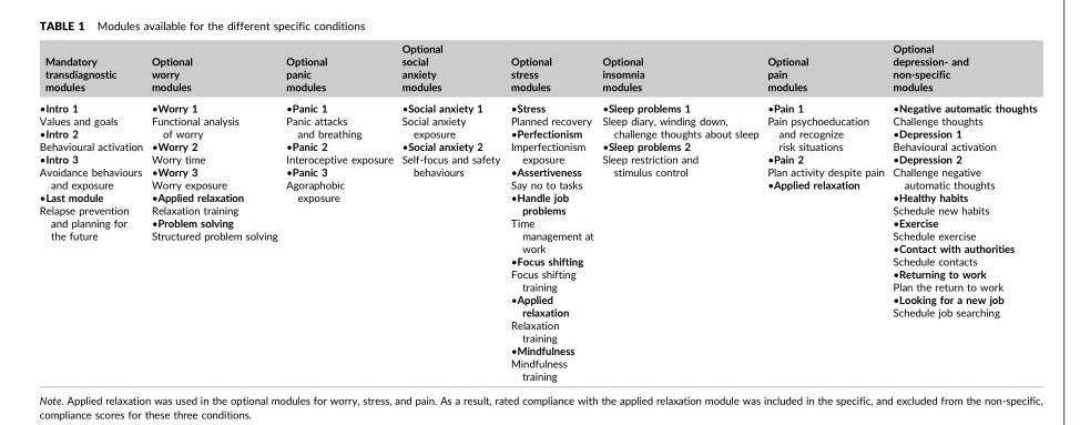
<table><thead><tr><td>Mandatory transdiagnostic modules</td><td>Optional worry modules</td><td>Optional panic modules</td><td>Optional social anxiety modules</td><td>Optional stress modules</td><td>Optional insomnia modules</td><td>Optional pain modules</td><td>Optional depression‐ and non‐specific modules</td></tr></thead><tbody><tr><td>•Intro 1 Values and goals •Intro 2 Behavioural activation •Intro 3 Avoidance behaviours and exposure •Last module Relapse prevention and planning for the future</td><td>•Worry 1 Functional analysis of worry •Worry 2 Worry time •Worry 3 Worry exposure •Applied relaxation Relaxation training •Problem solving Structured problem solving</td><td>•Panic 1 Panic attacks and breathing •Panic 2 Interoceptive exposure •Panic 3 Agoraphobic exposure</td><td>•Social anxiety 1 Social anxiety exposure •Social anxiety 2 Self‐focus and safety behaviours</td><td>•Stress Planned recovery •Perfectionism Imperfectionism exposure •Assertiveness Say no to tasks •Handle job problems Time management at work •Focus shifting Focus shifting training •Applied relaxation Relaxation training •Mindfulness Mindfulness training</td><td>•Sleep problems 1 Sleep diary, winding down, challenge thoughts about sleep •Sleep problems 2 Sleep restriction and stimulus control</td><td>•Pain 1 Pain psychoeducation and recognize risk situations •Pain 2 Plan activity despite pain •Applied relaxation</td><td>•Negative automatic thoughts Challenge thoughts •Depression 1 Behavioural activation •Depression 2 Challenge negative automatic thoughts •Healthy habits Schedule new habits •Exercise Schedule exercise •Contact with authorities Schedule contacts •Returning to work Plan the return to work •Looking for a new job Schedule job searching</td></tr></tbody></table>